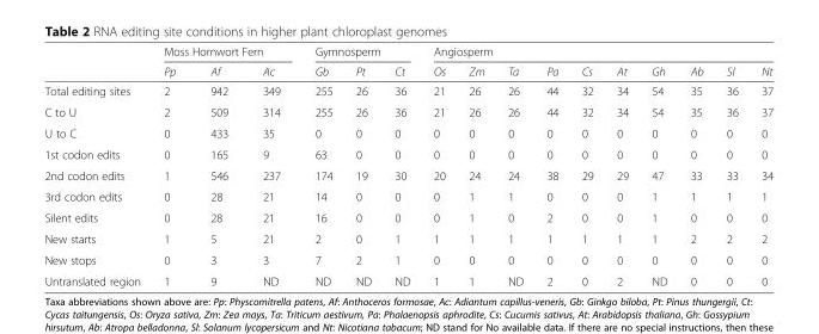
<table><thead><tr><td rowspan="2"></td><td colspan="3">Moss Hornwort Fern</td><td colspan="3">Gymnosperm</td><td colspan="10">Angiosperm</td></tr><tr><td>Pp</td><td>Af</td><td>Ac</td><td>Gb</td><td>Pt</td><td>Ct</td><td>Os</td><td>Zm</td><td>Ta</td><td>Pa</td><td>Cs</td><td>At</td><td>Gh</td><td>Ab</td><td>Sl</td><td>Nt</td></tr></thead><tbody><tr><td>Total editing sites</td><td>2</td><td>942</td><td>349</td><td>255</td><td>26</td><td>36</td><td>21</td><td>26</td><td>26</td><td>44</td><td>32</td><td>34</td><td>54</td><td>35</td><td>36</td><td>37</td></tr><tr><td>C to U</td><td>2</td><td>509</td><td>314</td><td>255</td><td>26</td><td>36</td><td>21</td><td>26</td><td>26</td><td>44</td><td>32</td><td>34</td><td>54</td><td>35</td><td>36</td><td>37</td></tr><tr><td>U to C</td><td>0</td><td>433</td><td>35</td><td>0</td><td>0</td><td>0</td><td>0</td><td>0</td><td>0</td><td>0</td><td>0</td><td>0</td><td>0</td><td>0</td><td>0</td><td>0</td></tr><tr><td>1st codon edits</td><td>0</td><td>165</td><td>9</td><td>63</td><td>0</td><td>0</td><td>0</td><td>0</td><td>0</td><td>0</td><td>0</td><td>0</td><td>0</td><td>0</td><td>0</td><td>0</td></tr><tr><td>2nd codon edits</td><td>1</td><td>546</td><td>237</td><td>174</td><td>19</td><td>30</td><td>20</td><td>24</td><td>24</td><td>38</td><td>29</td><td>29</td><td>47</td><td>33</td><td>33</td><td>34</td></tr><tr><td>3rd codon edits</td><td>0</td><td>28</td><td>21</td><td>14</td><td>0</td><td>0</td><td>0</td><td>1</td><td>1</td><td>0</td><td>0</td><td>0</td><td>1</td><td>1</td><td>1</td><td>1</td></tr><tr><td>Silent edits</td><td>0</td><td>28</td><td>21</td><td>16</td><td>0</td><td>0</td><td>0</td><td>1</td><td>0</td><td>2</td><td>0</td><td>0</td><td>1</td><td>0</td><td>0</td><td>0</td></tr><tr><td>New starts</td><td>1</td><td>5</td><td>21</td><td>2</td><td>0</td><td>1</td><td>1</td><td>1</td><td>1</td><td>1</td><td>1</td><td>1</td><td>1</td><td>2</td><td>2</td><td>2</td></tr><tr><td>New stops</td><td>0</td><td>3</td><td>3</td><td>7</td><td>2</td><td>1</td><td>0</td><td>0</td><td>0</td><td>0</td><td>0</td><td>0</td><td>0</td><td>0</td><td>0</td><td>0</td></tr><tr><td>Untranslated region</td><td>1</td><td>9</td><td>ND</td><td>ND</td><td>ND</td><td>ND</td><td>1</td><td>1</td><td>ND</td><td>2</td><td>0</td><td>2</td><td>ND</td><td>0</td><td>0</td><td>0</td></tr></tbody></table>